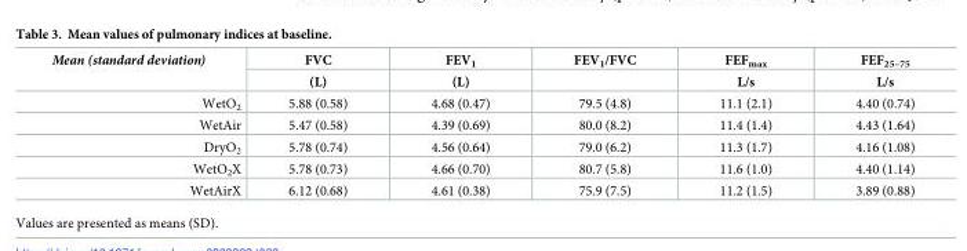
<table><thead><tr><td rowspan="2">Mean (standard deviation)</td><td rowspan="2">FVC (L)</td><td rowspan="2">FEV<sub>1</sub> (L)</td><td rowspan="2">FEV<sub>1</sub>/FVC</td><td rowspan="2">FEF<sub>max</sub> L/s</td><td rowspan="2">FEF<sub>25–75</sub> L/s</td></tr><tr></tr></thead><tbody><tr><td>WetO<sub>2</sub></td><td>5.88 (0.58)</td><td>4.68 (0.47)</td><td>79.5 (4.8)</td><td>11.1 (2.1)</td><td>4.40 (0.74)</td></tr><tr><td>WetAir</td><td>5.47 (0.58)</td><td>4.39 (0.69)</td><td>80.0 (8.2)</td><td>11.4 (1.4)</td><td>4.43 (1.64)</td></tr><tr><td>DryO<sub>2</sub></td><td>5.78 (0.74)</td><td>4.56 (0.64)</td><td>79.0 (6.2)</td><td>11.3 (1.7)</td><td>4.16 (1.08)</td></tr><tr><td>WetO<sub>2</sub>X</td><td>5.78 (0.73)</td><td>4.66 (0.70)</td><td>80.7 (5.8)</td><td>11.6 (1.0)</td><td>4.40 (1.14)</td></tr><tr><td>WetAirX</td><td>6.12 (0.68)</td><td>4.61 (0.38)</td><td>75.9 (7.5)</td><td>11.2 (1.5)</td><td>3.89 (0.88)</td></tr></tbody></table>